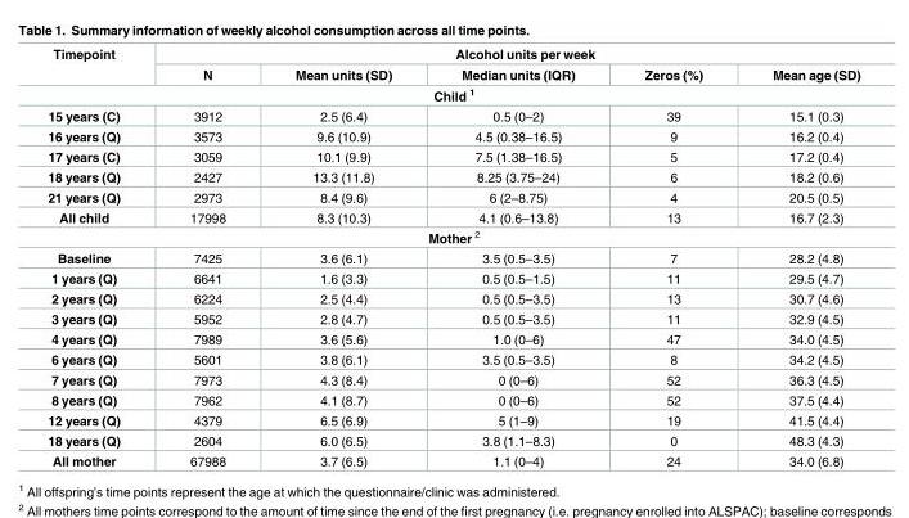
<table><thead><tr><td rowspan="2">Timepoint</td><td colspan="5">Alcohol units per week</td></tr><tr><td>N</td><td>Mean units (SD)</td><td>Median units (IQR)</td><td>Zeros (%)</td><td>Mean age (SD)</td></tr></thead><tbody><tr><td colspan="6">Child <sup>1</sup></td></tr><tr><td>15 years (C)</td><td>3912</td><td>2.5 (6.4)</td><td>0.5 (0–2)</td><td>39</td><td>15.1 (0.3)</td></tr><tr><td>16 years (Q)</td><td>3573</td><td>9.6 (10.9)</td><td>4.5 (0.38–16.5)</td><td>9</td><td>16.2 (0.4)</td></tr><tr><td>17 years (C)</td><td>3059</td><td>10.1 (9.9)</td><td>7.5 (1.38–16.5)</td><td>5</td><td>17.2 (0.4)</td></tr><tr><td>18 years (Q)</td><td>2427</td><td>13.3 (11.8)</td><td>8.25 (3.75–24)</td><td>6</td><td>18.2 (0.6)</td></tr><tr><td>21 years (Q)</td><td>2973</td><td>8.4 (9.6)</td><td>6 (2–8.75)</td><td>4</td><td>20.5 (0.5)</td></tr><tr><td>All child</td><td>17998</td><td>8.3 (10.3)</td><td>4.1 (0.6–13.8)</td><td>13</td><td>16.7 (2.3)</td></tr><tr><td colspan="6">Mother <sup>2</sup></td></tr><tr><td>Baseline</td><td>7425</td><td>3.6 (6.1)</td><td>3.5 (0.5–3.5)</td><td>7</td><td>28.2 (4.8)</td></tr><tr><td>1 years (Q)</td><td>6641</td><td>1.6 (3.3)</td><td>0.5 (0.5–1.5)</td><td>11</td><td>29.5 (4.7)</td></tr><tr><td>2 years (Q)</td><td>6224</td><td>2.5 (4.4)</td><td>0.5 (0.5–3.5)</td><td>13</td><td>30.7 (4.6)</td></tr><tr><td>3 years (Q)</td><td>5952</td><td>2.8 (4.7)</td><td>0.5 (0.5–3.5)</td><td>11</td><td>32.9 (4.5)</td></tr><tr><td>4 years (Q)</td><td>7989</td><td>3.6 (5.6)</td><td>1.0 (0–6)</td><td>47</td><td>34.0 (4.5)</td></tr><tr><td>6 years (Q)</td><td>5601</td><td>3.8 (6.1)</td><td>3.5 (0.5–3.5)</td><td>8</td><td>34.2 (4.5)</td></tr><tr><td>7 years (Q)</td><td>7973</td><td>4.3 (8.4)</td><td>0 (0–6)</td><td>52</td><td>36.3 (4.5)</td></tr><tr><td>8 years (Q)</td><td>7962</td><td>4.1 (8.7)</td><td>0 (0–6)</td><td>52</td><td>37.5 (4.4)</td></tr><tr><td>12 years (Q)</td><td>4379</td><td>6.5 (6.9)</td><td>5 (1–9)</td><td>19</td><td>41.5 (4.4)</td></tr><tr><td>18 years (Q)</td><td>2604</td><td>6.0 (6.5)</td><td>3.8 (1.1–8.3)</td><td>0</td><td>48.3 (4.3)</td></tr><tr><td>All mother</td><td>67988</td><td>3.7 (6.5)</td><td>1.1 (0–4)</td><td>24</td><td>34.0 (6.8)</td></tr></tbody></table>